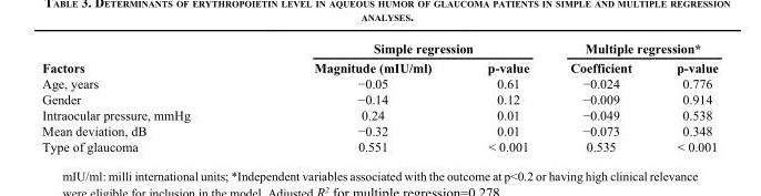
<table><thead><tr><td rowspan="2">Factors</td><td colspan="2">Simple regression</td><td colspan="2">Multiple regression*</td></tr><tr><td>Magnitude (mIU/ml)</td><td>p-value</td><td>Coefficient</td><td>p-value</td></tr></thead><tbody><tr><td>Age, years</td><td>−0.05</td><td>0.61</td><td>−0.024</td><td>0.776</td></tr><tr><td>Gender</td><td>−0.14</td><td>0.12</td><td>−0.009</td><td>0.914</td></tr><tr><td>Intraocular pressure, mmHg</td><td>0.24</td><td>0.01</td><td>−0.049</td><td>0.538</td></tr><tr><td>Mean deviation, dB</td><td>−0.32</td><td>0.01</td><td>−0.073</td><td>0.348</td></tr><tr><td>Type of glaucoma</td><td>0.551</td><td>&lt; 0.001</td><td>0.535</td><td>&lt; 0.001</td></tr></tbody></table>